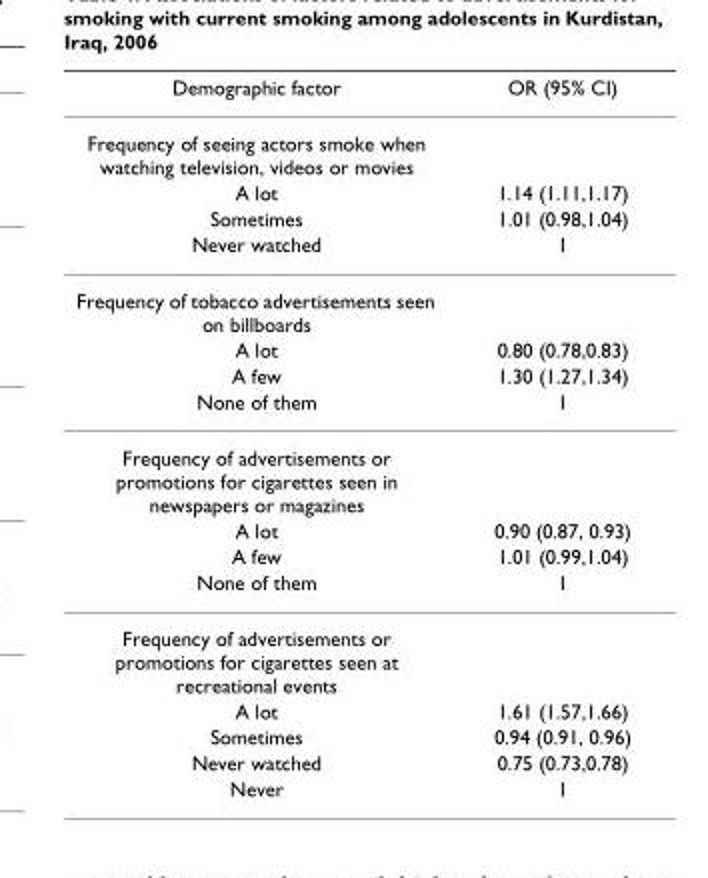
<table><thead><tr><td>Demographic factor</td><td>OR (95% CI)</td></tr></thead><tbody><tr><td colspan="2">Frequency of seeing actors smoke when watching television, videos or movies</td></tr><tr><td>A lot</td><td>1.14 (1.11,1.17)</td></tr><tr><td>Sometimes</td><td>1.01 (0.98,1.04)</td></tr><tr><td>Never watched</td><td>1</td></tr><tr><td colspan="2">Frequency of tobacco advertisements seen on billboards</td></tr><tr><td>A lot</td><td>0.80 (0.78,0.83)</td></tr><tr><td>A few</td><td>1.30 (1.27,1.34)</td></tr><tr><td>None of them</td><td>1</td></tr><tr><td colspan="2">Frequency of advertisements or promotions for cigarettes seen in newspapers or magazines</td></tr><tr><td>A lot</td><td>0.90 (0.87, 0.93)</td></tr><tr><td>A few</td><td>1.01 (0.99,1.04)</td></tr><tr><td>None of them</td><td>1</td></tr><tr><td colspan="2">Frequency of advertisements or promotions for cigarettes seen at recreational events</td></tr><tr><td>A lot</td><td>1.61 (1.57,1.66)</td></tr><tr><td>Sometimes</td><td>0.94 (0.91, 0.96)</td></tr><tr><td>Never watched</td><td>0.75 (0.73,0.78)</td></tr><tr><td>Never</td><td>1</td></tr></tbody></table>